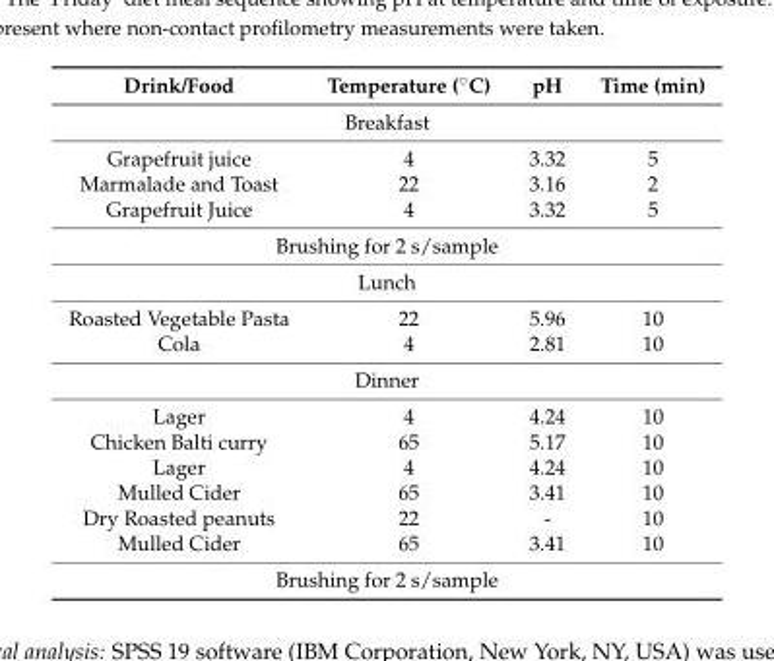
<table><thead><tr><td>Drink/Food</td><td>Temperature (˝C)</td><td>pH</td><td>Time (min)</td></tr></thead><tbody><tr><td colspan="4">Breakfast</td></tr><tr><td>Grapefruit juice</td><td>4</td><td>3.32</td><td>5</td></tr><tr><td>Marmalade and Toast</td><td>22</td><td>3.16</td><td>2</td></tr><tr><td>Grapefruit Juice</td><td>4</td><td>3.32</td><td>5</td></tr><tr><td colspan="4">Brushing for 2 s/sample</td></tr><tr><td colspan="4">Lunch</td></tr><tr><td>Roasted Vegetable Pasta</td><td>22</td><td>5.96</td><td>10</td></tr><tr><td>Cola</td><td>4</td><td>2.81</td><td>10</td></tr><tr><td colspan="4">Dinner</td></tr><tr><td>Lager</td><td>4</td><td>4.24</td><td>10</td></tr><tr><td>Chicken Balti curry</td><td>65</td><td>5.17</td><td>10</td></tr><tr><td>Lager</td><td>4</td><td>4.24</td><td>10</td></tr><tr><td>Mulled Cider</td><td>65</td><td>3.41</td><td>10</td></tr><tr><td>Dry Roasted peanuts</td><td>22</td><td>-</td><td>10</td></tr><tr><td>Mulled Cider</td><td>65</td><td>3.41</td><td>10</td></tr><tr><td colspan="4">Brushing for 2 s/sample</td></tr></tbody></table>